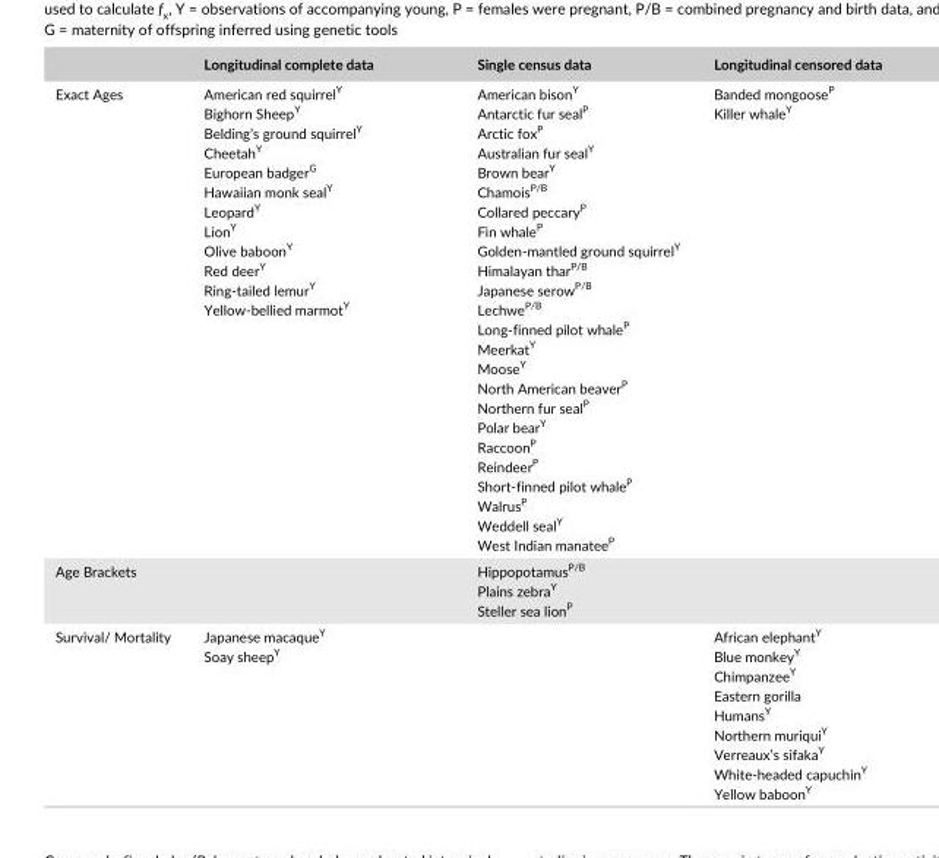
<table><thead><tr><td></td><td>Longitudinal complete data</td><td>Single census data</td><td>Longitudinal censored data</td></tr></thead><tbody><tr><td>Exact Ages</td><td>American red squirrel<sup>Y</sup> Bighorn Sheep<sup>Y</sup> Belding’s ground squirrel<sup>Y</sup> Cheetah<sup>Y</sup> European badger<sup>G</sup> Hawaiian monk seal<sup>Y</sup> Leopard<sup>Y</sup> Lion<sup>Y</sup> Olive baboon<sup>Y</sup> Red deer<sup>Y</sup> Ring- tailed lemur<sup>Y</sup> Yellow- bellied marmot<sup>Y</sup></td><td>American bison<sup>Y</sup> Antarctic fur seal<sup>P</sup> Arctic fox<sup>P</sup> Australian fur seal<sup>Y</sup> Brown bear<sup>Y</sup> Chamois<sup>P/B</sup> Collared peccary<sup>P</sup> Fin whale<sup>P</sup> Golden- mantled ground squirrel<sup>Y</sup> Himalayan thar<sup>P/B</sup> Japanese serow<sup>P/B</sup> Lechwe<sup>P/B</sup> Long- finned pilot whale<sup>P</sup> Meerkat<sup>Y</sup> Moose<sup>Y</sup> North American beaver<sup>P</sup> Northern fur seal<sup>P</sup> Polar bear<sup>Y</sup> Raccoon<sup>P</sup> Reindeer<sup>P</sup> Short- finned pilot whale<sup>P</sup> Walrus<sup>P</sup> Weddell seal<sup>Y</sup> West Indian manatee<sup>P</sup></td><td>Banded mongoose<sup>P</sup> Killer whale<sup>Y</sup></td></tr><tr><td>Age Brackets</td><td></td><td>Hippopotamus<sup>P/B</sup> Plains zebra<sup>Y</sup> Steller sea lion<sup>P</sup></td><td></td></tr><tr><td>Survival/ Mortality</td><td>Japanese macaque<sup>Y</sup> Soay sheep<sup>Y</sup></td><td></td><td>African elephant<sup>Y</sup> Blue monkey<sup>Y</sup> Chimpanzee<sup>Y</sup> Eastern gorilla Humans<sup>Y</sup> Northern muriqui<sup>Y</sup> Verreaux’s sifaka<sup>Y</sup> White- headed capuchin<sup>Y</sup> Yellow baboon<sup>Y</sup></td></tr></tbody></table>